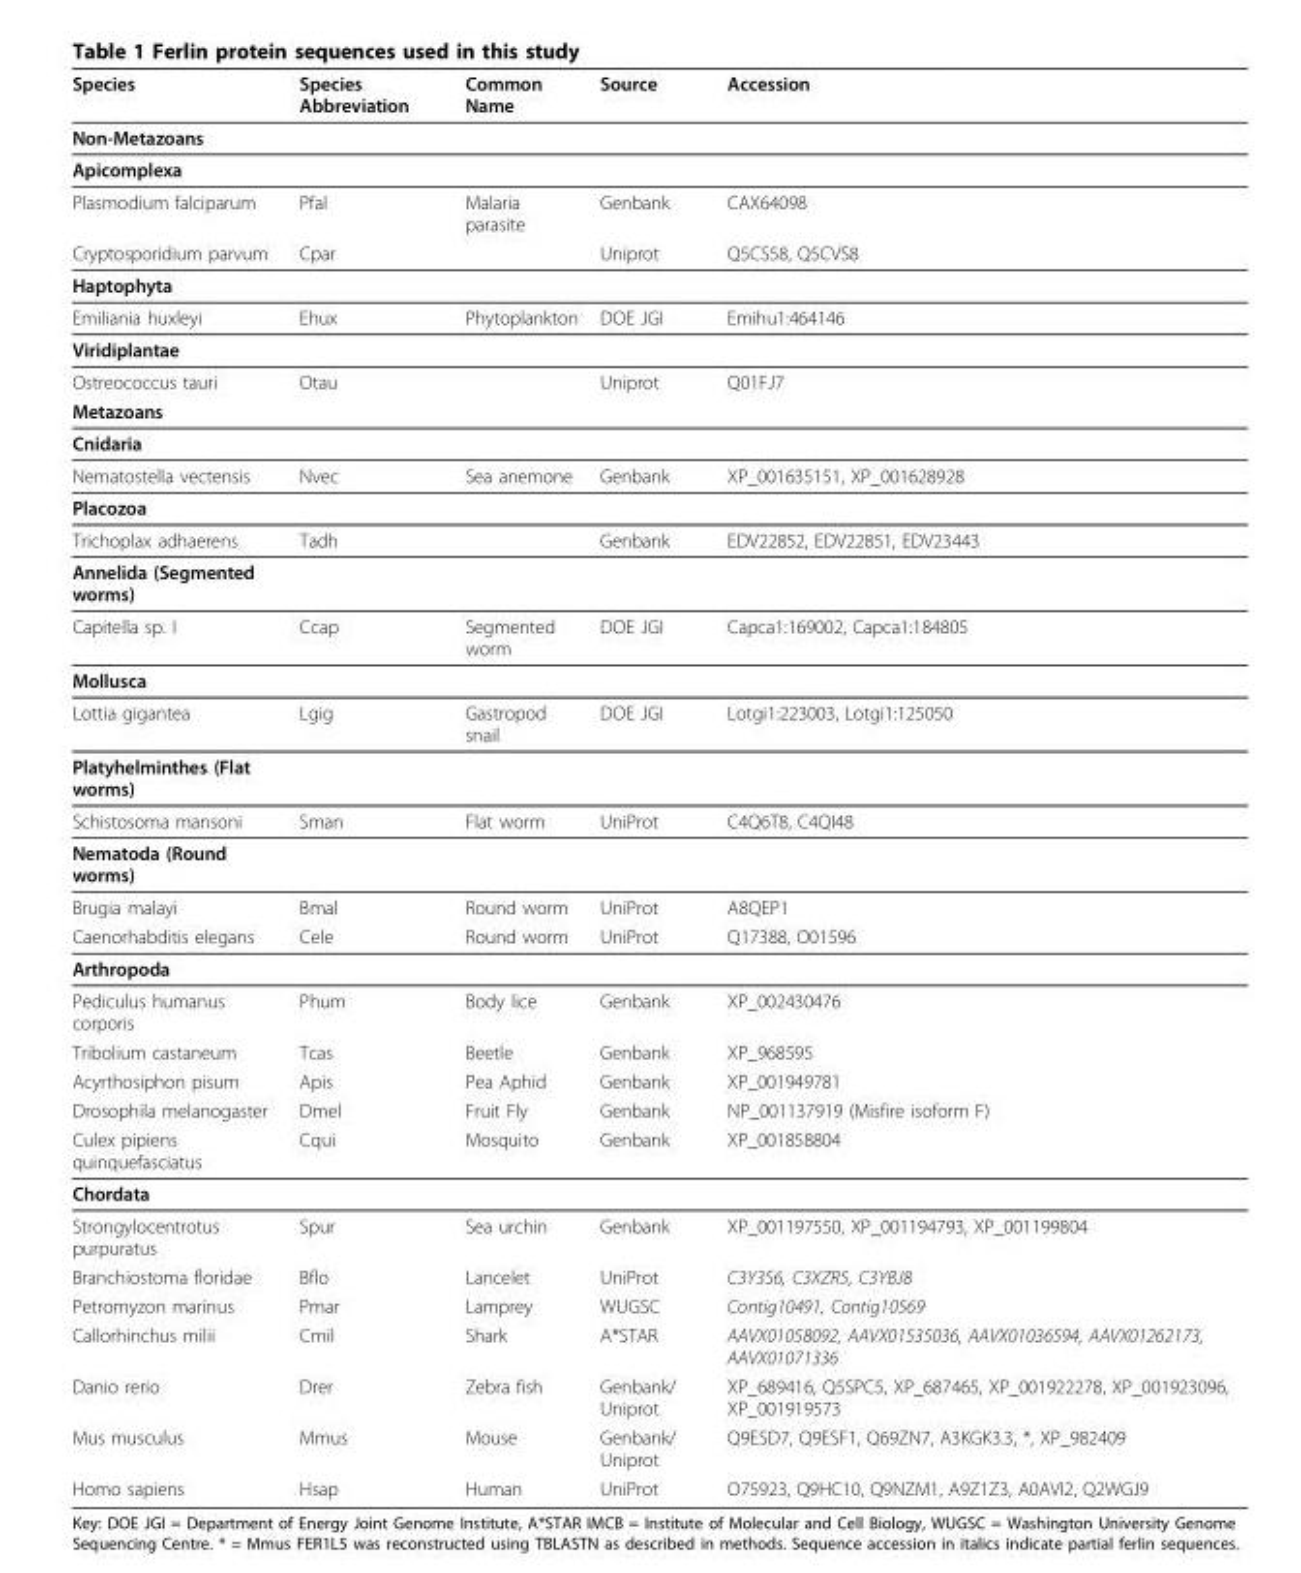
<table><thead><tr><td>Species</td><td>Species Abbreviation</td><td>Common Name</td><td>Source</td><td>Accession</td></tr></thead><tbody><tr><td colspan="5">Non-Metazoans</td></tr><tr><td colspan="5">Apicomplexa</td></tr><tr><td>Plasmodium falciparum</td><td>Pfal</td><td>Malaria parasite</td><td>Genbank</td><td>CAX64098</td></tr><tr><td>Cryptosporidium parvum</td><td>Cpar</td><td></td><td>Uniprot</td><td>Q5CS58, Q5CVS8</td></tr><tr><td colspan="5">Haptophyta</td></tr><tr><td>Emiliania huxleyi</td><td>Ehux</td><td>Phytoplankton</td><td>DOE JGI</td><td>Emihu1:464146</td></tr><tr><td colspan="5">Viridiplantae</td></tr><tr><td>Ostreococcus tauri</td><td>Otau</td><td></td><td>Uniprot</td><td>Q01FJ7</td></tr><tr><td colspan="5">Metazoans</td></tr><tr><td colspan="5">Cnidaria</td></tr><tr><td>Nematostella vectensis</td><td>Nvec</td><td>Sea anemone</td><td>Genbank</td><td>XP_001635151, XP_001628928</td></tr><tr><td colspan="5">Placozoa</td></tr><tr><td>Trichoplax adhaerens</td><td>Tadh</td><td></td><td>Genbank</td><td>EDV22852, EDV22851, EDV23443</td></tr><tr><td colspan="5">Annelida (Segmented worms)</td></tr><tr><td>Capitella sp. I</td><td>Ccap</td><td>Segmented worm</td><td>DOE JGI</td><td>Capca1:169002, Capca1:184805</td></tr><tr><td colspan="5">Mollusca</td></tr><tr><td>Lottia gigantea</td><td>Lgig</td><td>Gastropod snail</td><td>DOE JGI</td><td>Lotgi1:223003, Lotgi1:125050</td></tr><tr><td colspan="5">Platyhelminthes (Flat worms)</td></tr><tr><td>Schistosoma mansoni</td><td>Sman</td><td>Flat worm</td><td>UniProt</td><td>C4Q6T8, C4QI48</td></tr><tr><td colspan="5">Nematoda (Round worms)</td></tr><tr><td>Brugia malayi</td><td>Bmal</td><td>Round worm</td><td>UniProt</td><td>A8QEP1</td></tr><tr><td>Caenorhabditis elegans</td><td>Cele</td><td>Round worm</td><td>UniProt</td><td>Q17388, O01596</td></tr><tr><td colspan="5">Arthropoda</td></tr><tr><td>Pediculus humanus corporis</td><td>Phum</td><td>Body lice</td><td>Genbank</td><td>XP_002430476</td></tr><tr><td>Tribolium castaneum</td><td>Tcas</td><td>Beetle</td><td>Genbank</td><td>XP_968595</td></tr><tr><td>Acyrthosiphon pisum</td><td>Apis</td><td>Pea Aphid</td><td>Genbank</td><td>XP_001949781</td></tr><tr><td>Drosophila melanogaster</td><td>Dmel</td><td>Fruit Fly</td><td>Genbank</td><td>NP_001137919 (Misfire isoform F)</td></tr><tr><td>Culex pipiens quinquefasciatus</td><td>Cqui</td><td>Mosquito</td><td>Genbank</td><td>XP_001858804</td></tr><tr><td colspan="5">Chordata</td></tr><tr><td>Strongylocentrotus purpuratus</td><td>Spur</td><td>Sea urchin</td><td>Genbank</td><td>XP_001197550, XP_001194793, XP_001199804</td></tr><tr><td>Branchiostoma floridae</td><td>Bflo</td><td>Lancelet</td><td>UniProt</td><td>C3Y3S6, C3XZR5, C3YBJ8</td></tr><tr><td>Petromyzon marinus</td><td>Pmar</td><td>Lamprey</td><td>WUGSC</td><td>Contig10491, Contig10569</td></tr><tr><td>Callorhinchus milii</td><td>Cmil</td><td>Shark</td><td>A*STAR</td><td>AAVX01058092, AAVX01535036, AAVX01036594, AAVX01262173, AAVX01071336</td></tr><tr><td>Danio rerio</td><td>Drer</td><td>Zebra fish</td><td>Genbank/ Uniprot</td><td>XP_689416, Q5SPC5, XP_687465, XP_001922278, XP_001923096, XP_001919573</td></tr><tr><td>Mus musculus</td><td>Mmus</td><td>Mouse</td><td>Genbank/ Uniprot</td><td>Q9ESD7, Q9ESF1, Q69ZN7, A3KGK3.3, *, XP_982409</td></tr><tr><td>Homo sapiens</td><td>Hsap</td><td>Human</td><td>UniProt</td><td>O75923, Q9HC10, Q9NZM1, A9Z1Z3, A0AVI2, Q2WGJ9</td></tr></tbody></table>